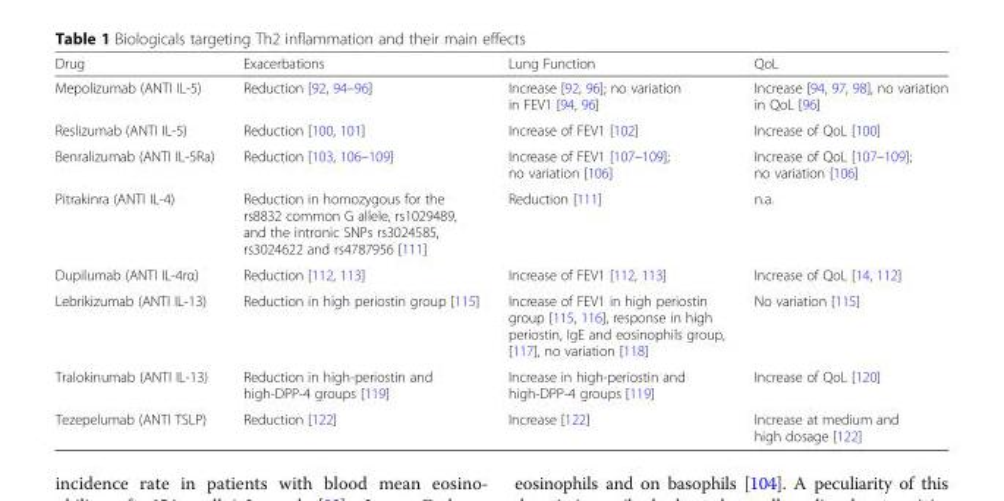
<table><thead><tr><td>Drug</td><td>Exacerbations</td><td>Lung Function</td><td>QoL</td></tr></thead><tbody><tr><td>Mepolizumab (ANTI IL-5)</td><td>Reduction [92, 94–96]</td><td>Increase [92, 96]; no variation in FEV1 [94, 96]</td><td>Increase [94, 97, 98], no variation in QoL [96]</td></tr><tr><td>Reslizumab (ANTI IL-5)</td><td>Reduction [100, 101]</td><td>Increase of FEV1 [102]</td><td>Increase of QoL [100]</td></tr><tr><td>Benralizumab (ANTI IL-5Ra)</td><td>Reduction [103, 106–109]</td><td>Increase of FEV1 [107–109]; no variation [106]</td><td>Increase of QoL [107–109]; no variation [106]</td></tr><tr><td>Pitrakinra (ANTI IL-4)</td><td>Reduction in homozygous for the rs8832 common G allele, rs1029489, and the intronic SNPs rs3024585, rs3024622 and rs4787956 [111]</td><td>Reduction [111]</td><td>n.a.</td></tr><tr><td>Dupilumab (ANTI IL-4rα)</td><td>Reduction [112, 113]</td><td>Increase of FEV1 [112, 113]</td><td>Increase of QoL [14, 112]</td></tr><tr><td>Lebrikizumab (ANTI IL-13)</td><td>Reduction in high periostin group [115]</td><td>Increase of FEV1 in high periostin group [115, 116], response in high periostin, IgE and eosinophils group, [117], no variation [118]</td><td>No variation [115]</td></tr><tr><td>Tralokinumab (ANTI IL-13)</td><td>Reduction in high-periostin and high-DPP-4 groups [119]</td><td>Increase in high-periostin and high-DPP-4 groups [119]</td><td>Increase of QoL [120]</td></tr><tr><td>Tezepelumab (ANTI TSLP)</td><td>Reduction [122]</td><td>Increase [122]</td><td>Increase at medium and high dosage [122]</td></tr></tbody></table>